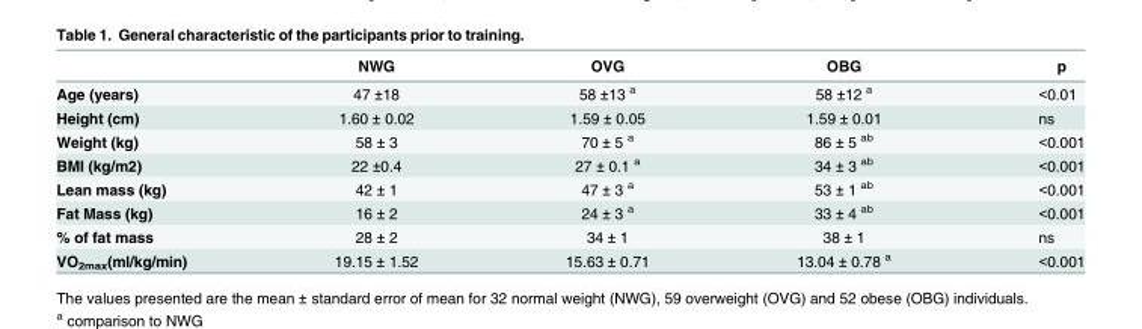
<table><thead><tr><td></td><td>NWG</td><td>OVG</td><td>OBG</td><td>p</td></tr></thead><tbody><tr><td>Age (years)</td><td>47 ±18</td><td>58 ±13 <sup>a</sup></td><td>58 ±12 <sup>a</sup></td><td>&lt;0.01</td></tr><tr><td>Height (cm)</td><td>1.60 ± 0.02</td><td>1.59 ± 0.05</td><td>1.59 ± 0.01</td><td>ns</td></tr><tr><td>Weight (kg)</td><td>58 ± 3</td><td>70 ± 5 <sup>a</sup></td><td>86 ± 5 <sup>ab</sup></td><td>&lt;0.001</td></tr><tr><td>BMI (kg/m2)</td><td>22 ±0.4</td><td>27 ± 0.1 <sup>a</sup></td><td>34 ± 3 <sup>ab</sup></td><td>&lt;0.001</td></tr><tr><td>Lean mass (kg)</td><td>42 ± 1</td><td>47 ± 3 <sup>a</sup></td><td>53 ± 1 <sup>ab</sup></td><td>&lt;0.001</td></tr><tr><td>Fat Mass (kg)</td><td>16 ± 2</td><td>24 ± 3 <sup>a</sup></td><td>33 ± 4 <sup>ab</sup></td><td>&lt;0.001</td></tr><tr><td>% of fat mass</td><td>28 ± 2</td><td>34 ± 1</td><td>38 ± 1</td><td>ns</td></tr><tr><td>VO<sub>2max</sub>(ml/kg/min)</td><td>19.15 ± 1.52</td><td>15.63 ± 0.71</td><td>13.04 ± 0.78 <sup>a</sup></td><td>&lt;0.001</td></tr></tbody></table>